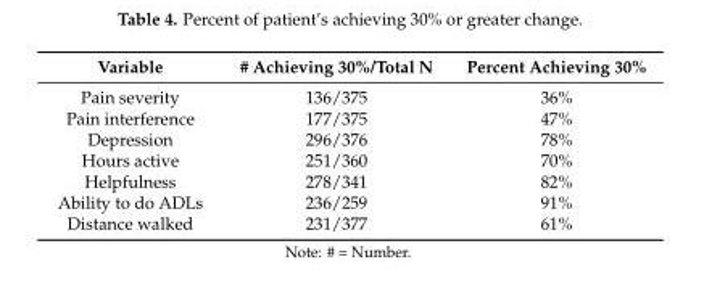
<table><thead><tr><td>Variable</td><td># Achieving 30%/Total N</td><td>Percent Achieving 30%</td></tr></thead><tbody><tr><td>Pain severity</td><td>136/375</td><td>36%</td></tr><tr><td>Pain interference</td><td>177/375</td><td>47%</td></tr><tr><td>Depression</td><td>296/376</td><td>78%</td></tr><tr><td>Hours active</td><td>251/360</td><td>70%</td></tr><tr><td>Helpfulness</td><td>278/341</td><td>82%</td></tr><tr><td>Ability to do ADLs</td><td>236/259</td><td>91%</td></tr><tr><td>Distance walked</td><td>231/377</td><td>61%</td></tr></tbody></table>